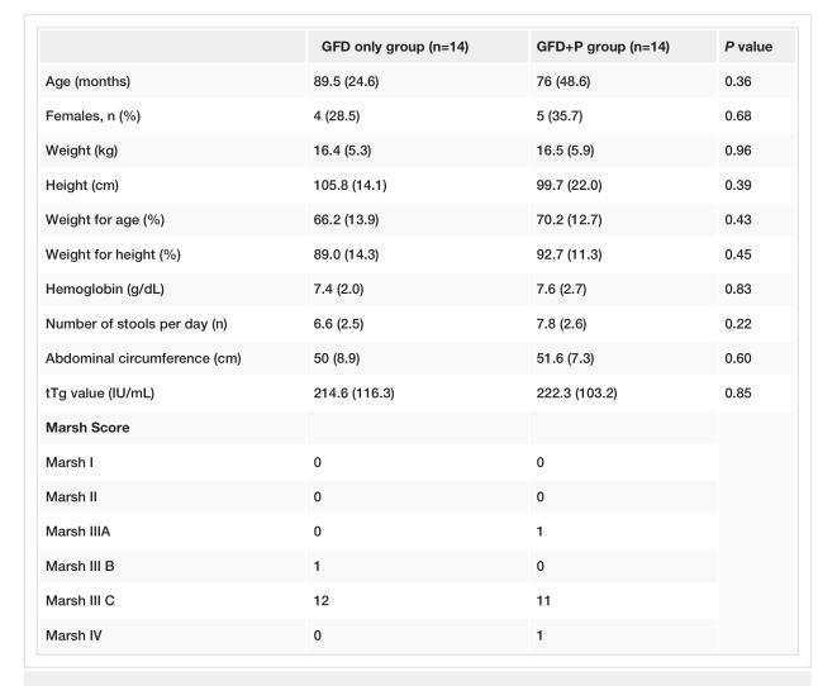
<table><thead><tr><td></td><td>GFD only group (n=14)</td><td>GFD+P group (n=14)</td><td>P value</td></tr></thead><tbody><tr><td>Age (months)</td><td>89.5 (24.6)</td><td>76 (48.6)</td><td>0.36</td></tr><tr><td>Females, n (%)</td><td>4 (28.5)</td><td>5 (35.7)</td><td>0.68</td></tr><tr><td>Weight (kg)</td><td>16.4 (5.3)</td><td>16.5 (5.9)</td><td>0.96</td></tr><tr><td>Height (cm)</td><td>105.8 (14.1)</td><td>99.7 (22.0)</td><td>0.39</td></tr><tr><td>Weight for age (%)</td><td>66.2 (13.9)</td><td>70.2 (12.7)</td><td>0.43</td></tr><tr><td>Weight for height (%)</td><td>89.0 (14.3)</td><td>92.7 (11.3)</td><td>0.45</td></tr><tr><td>Hemoglobin (g/dL)</td><td>7.4 (2.0)</td><td>7.6 (2.7)</td><td>0.83</td></tr><tr><td>Number of stools per day (n)</td><td>6.6 (2.5)</td><td>7.8 (2.6)</td><td>0.22</td></tr><tr><td>Abdominal circumference (cm)</td><td>50 (8.9)</td><td>51.6 (7.3)</td><td>0.60</td></tr><tr><td>tTg value (IU/mL)</td><td>214.6 (116.3)</td><td>222.3 (103.2)</td><td>0.85</td></tr><tr><td colspan="3">Marsh Score</td><td rowspan="7"></td></tr><tr><td>Marsh I</td><td>0</td><td>0</td></tr><tr><td>Marsh II</td><td>0</td><td>0</td></tr><tr><td>Marsh IIIA</td><td>0</td><td>1</td></tr><tr><td>Marsh III B</td><td>1</td><td>0</td></tr><tr><td>Marsh III C</td><td>12</td><td>11</td></tr><tr><td>Marsh IV</td><td>0</td><td>1</td></tr></tbody></table>